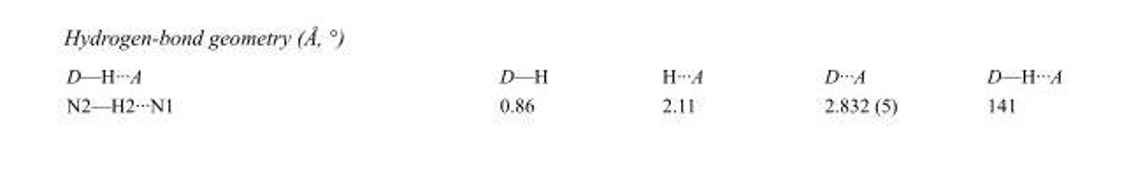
<table><tbody><tr><td>D—H···A</td><td>D—H</td><td>H···A</td><td>D···A</td><td>D—H···A</td></tr><tr><td>N2—H2···N1</td><td>0.86</td><td>2.11</td><td>2.832 (5)</td><td>141</td></tr></tbody></table>